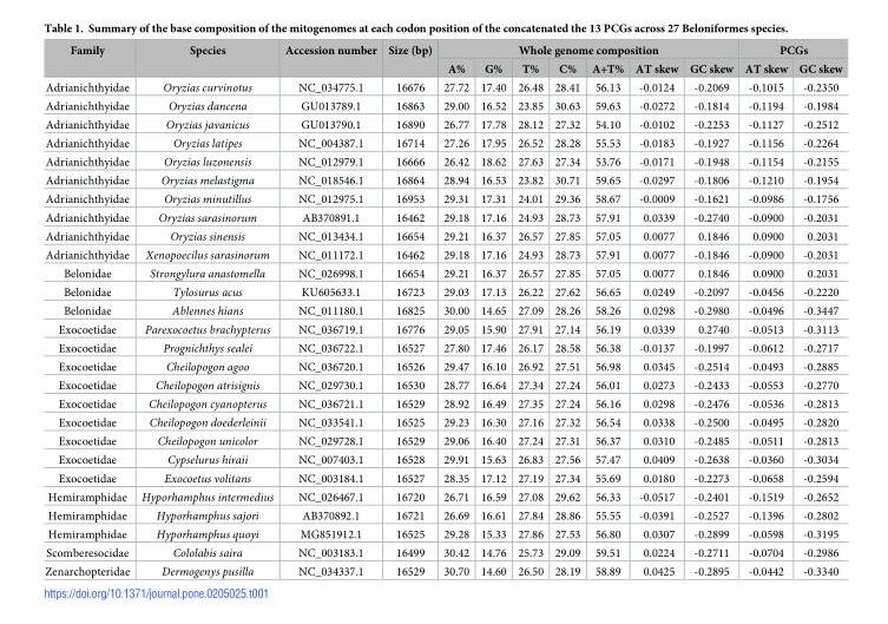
<table><thead><tr><td rowspan="2">Family</td><td rowspan="2">Species</td><td rowspan="2">Accession number</td><td rowspan="2">Size (bp)</td><td colspan="7">Whole genome composition</td><td colspan="2">PCGs</td></tr><tr><td>A%</td><td>G%</td><td>T%</td><td>C%</td><td>A+T%</td><td>AT skew</td><td>GC skew</td><td>AT skew</td><td>GC skew</td></tr></thead><tbody><tr><td>Adrianichthyidae</td><td>Oryzias curvinotus</td><td>NC_034775.1</td><td>16676</td><td>27.72</td><td>17.40</td><td>26.48</td><td>28.41</td><td>56.13</td><td>-0.0124</td><td>-0.2069</td><td>-0.1015</td><td>-0.2350</td></tr><tr><td>Adrianichthyidae</td><td>Oryzias dancena</td><td>GU013789.1</td><td>16863</td><td>29.00</td><td>16.52</td><td>23.85</td><td>30.63</td><td>59.63</td><td>-0.0272</td><td>-0.1814</td><td>-0.1194</td><td>-0.1984</td></tr><tr><td>Adrianichthyidae</td><td>Oryzias javanicus</td><td>GU013790.1</td><td>16890</td><td>26.77</td><td>17.78</td><td>28.12</td><td>27.32</td><td>54.10</td><td>-0.0102</td><td>-0.2253</td><td>-0.1127</td><td>-0.2512</td></tr><tr><td>Adrianichthyidae</td><td>Oryzias latipes</td><td>NC_004387.1</td><td>16714</td><td>27.26</td><td>17.95</td><td>26.52</td><td>28.28</td><td>55.53</td><td>-0.0183</td><td>-0.1927</td><td>-0.1156</td><td>-0.2264</td></tr><tr><td>Adrianichthyidae</td><td>Oryzias luzonensis</td><td>NC_012979.1</td><td>16666</td><td>26.42</td><td>18.62</td><td>27.63</td><td>27.34</td><td>53.76</td><td>-0.0171</td><td>-0.1948</td><td>-0.1154</td><td>-0.2155</td></tr><tr><td>Adrianichthyidae</td><td>Oryzias melastigma</td><td>NC_018546.1</td><td>16864</td><td>28.94</td><td>16.53</td><td>23.82</td><td>30.71</td><td>59.65</td><td>-0.0297</td><td>-0.1806</td><td>-0.1210</td><td>-0.1954</td></tr><tr><td>Adrianichthyidae</td><td>Oryzias minutillus</td><td>NC_012975.1</td><td>16953</td><td>29.31</td><td>17.31</td><td>24.01</td><td>29.36</td><td>58.67</td><td>-0.0009</td><td>-0.1621</td><td>-0.0986</td><td>-0.1756</td></tr><tr><td>Adrianichthyidae</td><td>Oryzias sarasinorum</td><td>AB370891.1</td><td>16462</td><td>29.18</td><td>17.16</td><td>24.93</td><td>28.73</td><td>57.91</td><td>0.0339</td><td>-0.2740</td><td>-0.0900</td><td>-0.2031</td></tr><tr><td>Adrianichthyidae</td><td>Oryzias sinensis</td><td>NC_013434.1</td><td>16654</td><td>29.21</td><td>16.37</td><td>26.57</td><td>27.85</td><td>57.05</td><td>0.0077</td><td>0.1846</td><td>0.0900</td><td>0.2031</td></tr><tr><td>Adrianichthyidae</td><td>Xenopoecilus sarasinorum</td><td>NC_011172.1</td><td>16462</td><td>29.18</td><td>17.16</td><td>24.93</td><td>28.73</td><td>57.91</td><td>0.0077</td><td>-0.1846</td><td>-0.0900</td><td>-0.2031</td></tr><tr><td>Belonidae</td><td>Strongylura anastomella</td><td>NC_026998.1</td><td>16654</td><td>29.21</td><td>16.37</td><td>26.57</td><td>27.85</td><td>57.05</td><td>0.0077</td><td>0.1846</td><td>0.0900</td><td>0.2031</td></tr><tr><td>Belonidae</td><td>Tylosurus acus</td><td>KU605633.1</td><td>16723</td><td>29.03</td><td>17.13</td><td>26.22</td><td>27.62</td><td>56.65</td><td>0.0249</td><td>-0.2097</td><td>-0.0456</td><td>-0.2220</td></tr><tr><td>Belonidae</td><td>Ablennes hians</td><td>NC_011180.1</td><td>16825</td><td>30.00</td><td>14.65</td><td>27.09</td><td>28.26</td><td>58.26</td><td>0.0298</td><td>-0.2980</td><td>-0.0496</td><td>-0.3447</td></tr><tr><td>Exocoetidae</td><td>Parexocoetus brachypterus</td><td>NC_036719.1</td><td>16776</td><td>29.05</td><td>15.90</td><td>27.91</td><td>27.14</td><td>56.19</td><td>0.0339</td><td>0.2740</td><td>-0.0513</td><td>-0.3113</td></tr><tr><td>Exocoetidae</td><td>Prognichthys sealei</td><td>NC_036722.1</td><td>16527</td><td>27.80</td><td>17.46</td><td>26.17</td><td>28.58</td><td>56.38</td><td>-0.0137</td><td>-0.1997</td><td>-0.0612</td><td>-0.2717</td></tr><tr><td>Exocoetidae</td><td>Cheilopogon agoo</td><td>NC_036720.1</td><td>16526</td><td>29.47</td><td>16.10</td><td>26.92</td><td>27.51</td><td>56.98</td><td>0.0345</td><td>-0.2514</td><td>-0.0493</td><td>-0.2885</td></tr><tr><td>Exocoetidae</td><td>Cheilopogon atrisignis</td><td>NC_029730.1</td><td>16530</td><td>28.77</td><td>16.64</td><td>27.34</td><td>27.24</td><td>56.01</td><td>0.0273</td><td>-0.2433</td><td>-0.0553</td><td>-0.2770</td></tr><tr><td>Exocoetidae</td><td>Cheilopogon cyanopterus</td><td>NC_036721.1</td><td>16529</td><td>28.92</td><td>16.49</td><td>27.35</td><td>27.24</td><td>56.16</td><td>0.0298</td><td>-0.2476</td><td>-0.0536</td><td>-0.2813</td></tr><tr><td>Exocoetidae</td><td>Cheilopogon doederleinii</td><td>NC_033541.1</td><td>16525</td><td>29.23</td><td>16.30</td><td>27.16</td><td>27.32</td><td>56.54</td><td>0.0338</td><td>-0.2500</td><td>-0.0495</td><td>-0.2820</td></tr><tr><td>Exocoetidae</td><td>Cheilopogon unicolor</td><td>NC_029728.1</td><td>16529</td><td>29.06</td><td>16.40</td><td>27.24</td><td>27.31</td><td>56.37</td><td>0.0310</td><td>-0.2485</td><td>-0.0511</td><td>-0.2813</td></tr><tr><td>Exocoetidae</td><td>Cypselurus hiraii</td><td>NC_007403.1</td><td>16528</td><td>29.91</td><td>15.63</td><td>26.83</td><td>27.56</td><td>57.47</td><td>0.0409</td><td>-0.2638</td><td>-0.0360</td><td>-0.3034</td></tr><tr><td>Exocoetidae</td><td>Exocoetus volitans</td><td>NC_003184.1</td><td>16527</td><td>28.35</td><td>17.12</td><td>27.19</td><td>27.34</td><td>55.69</td><td>0.0180</td><td>-0.2273</td><td>-0.0658</td><td>-0.2594</td></tr><tr><td>Hemiramphidae</td><td>Hyporhamphus intermedius</td><td>NC_026467.1</td><td>16720</td><td>26.71</td><td>16.59</td><td>27.08</td><td>29.62</td><td>56.33</td><td>-0.0517</td><td>-0.2401</td><td>-0.1519</td><td>-0.2652</td></tr><tr><td>Hemiramphidae</td><td>Hyporhamphus sajori</td><td>AB370892.1</td><td>16721</td><td>26.69</td><td>16.61</td><td>27.84</td><td>28.86</td><td>55.55</td><td>-0.0391</td><td>-0.2527</td><td>-0.1396</td><td>-0.2802</td></tr><tr><td>Hemiramphidae</td><td>Hyporhamphus quoyi</td><td>MG851912.1</td><td>16525</td><td>29.28</td><td>15.33</td><td>27.86</td><td>27.53</td><td>56.80</td><td>0.0307</td><td>-0.2899</td><td>-0.0598</td><td>-0.3195</td></tr><tr><td>Scomberesocidae</td><td>Cololabis saira</td><td>NC_003183.1</td><td>16499</td><td>30.42</td><td>14.76</td><td>25.73</td><td>29.09</td><td>59.51</td><td>0.0224</td><td>-0.2711</td><td>-0.0704</td><td>-0.2986</td></tr><tr><td>Zenarchopteridae</td><td>Dermogenys pusilla</td><td>NC_034337.1</td><td>16529</td><td>30.70</td><td>14.60</td><td>26.50</td><td>28.19</td><td>58.89</td><td>0.0425</td><td>-0.2895</td><td>-0.0442</td><td>-0.3340</td></tr></tbody></table>